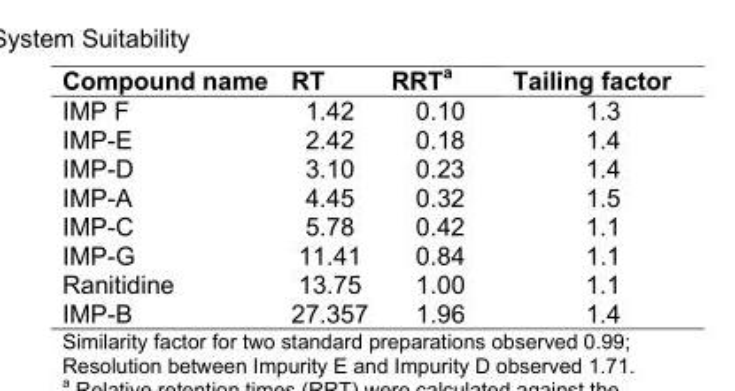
<table><thead><tr><td>Compound name</td><td>RT</td><td>RRT<sup>a</sup></td><td>Tailing factor</td></tr></thead><tbody><tr><td>IMP F</td><td>1.42</td><td>0.10</td><td>1.3</td></tr><tr><td>IMP-E</td><td>2.42</td><td>0.18</td><td>1.4</td></tr><tr><td>IMP-D</td><td>3.10</td><td>0.23</td><td>1.4</td></tr><tr><td>IMP-A</td><td>4.45</td><td>0.32</td><td>1.5</td></tr><tr><td>IMP-C</td><td>5.78</td><td>0.42</td><td>1.1</td></tr><tr><td>IMP-G</td><td>11.41</td><td>0.84</td><td>1.1</td></tr><tr><td>Ranitidine</td><td>13.75</td><td>1.00</td><td>1.1</td></tr><tr><td>IMP-B</td><td>27.357</td><td>1.96</td><td>1.4</td></tr></tbody></table>